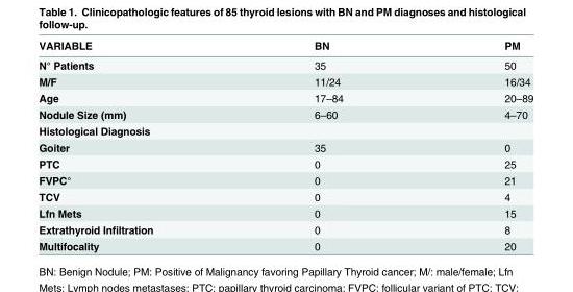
<table><thead><tr><td>VARIABLE</td><td>BN</td><td>PM</td></tr></thead><tbody><tr><td>N° Patients</td><td>35</td><td>50</td></tr><tr><td>M/F</td><td>11/24</td><td>16/34</td></tr><tr><td>Age</td><td>17–84</td><td>20–89</td></tr><tr><td>Nodule Size (mm)</td><td>6–60</td><td>4–70</td></tr><tr><td colspan="3">Histological Diagnosis</td></tr><tr><td>Goiter</td><td>35</td><td>0</td></tr><tr><td>PTC</td><td>0</td><td>25</td></tr><tr><td>FVPC°</td><td>0</td><td>21</td></tr><tr><td>TCV</td><td>0</td><td>4</td></tr><tr><td>Lfn Mets</td><td>0</td><td>15</td></tr><tr><td>Extrathyroid Infiltration</td><td>0</td><td>8</td></tr><tr><td>Multifocality</td><td>0</td><td>20</td></tr></tbody></table>